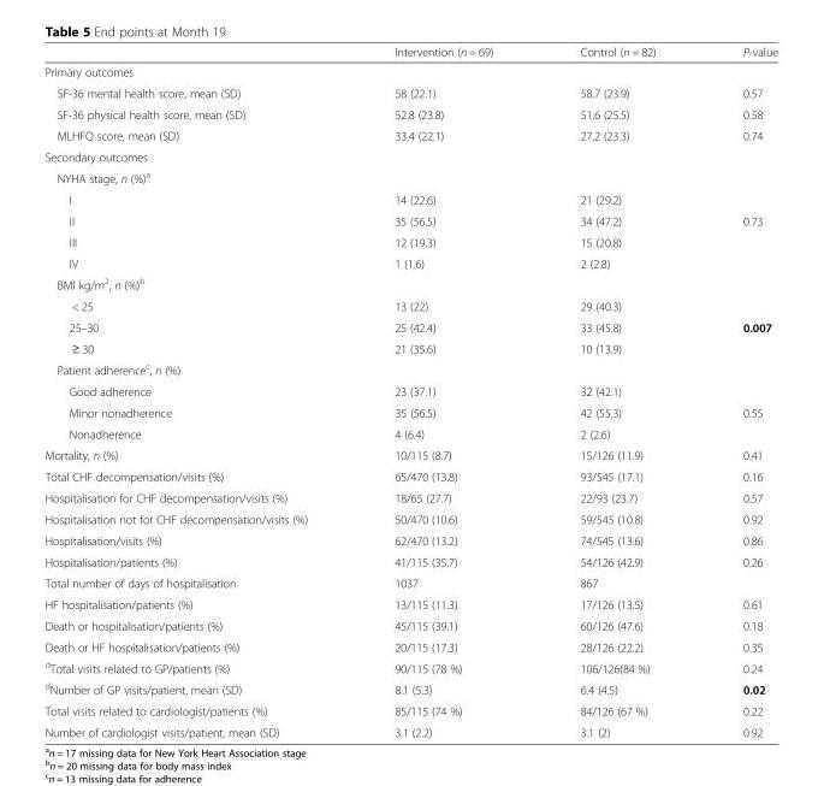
<table><thead><tr><td></td><td>Intervention (n = 69)</td><td>Control (n = 82)</td><td>P-value</td></tr></thead><tbody><tr><td colspan="4">Primary outcomes</td></tr><tr><td>SF-36 mental health score, mean (SD)</td><td>58 (22.1)</td><td>58.7 (23.9)</td><td>0.57</td></tr><tr><td>SF-36 physical health score, mean (SD)</td><td>52.8 (23.8)</td><td>51.6 (25.5)</td><td>0.58</td></tr><tr><td>MLHFQ score, mean (SD)</td><td>33.4 (22.1)</td><td>27.2 (23.3)</td><td>0.74</td></tr><tr><td colspan="4">Secondary outcomes</td></tr><tr><td colspan="4">NYHA stage, n (%)<sup>a</sup></td></tr><tr><td>I</td><td>14 (22.6)</td><td>21 (29.2)</td><td></td></tr><tr><td>II</td><td>35 (56.5)</td><td>34 (47.2)</td><td>0.73</td></tr><tr><td>III</td><td>12 (19.3)</td><td>15 (20.8)</td><td></td></tr><tr><td>IV</td><td>1 (1.6)</td><td>2 (2.8)</td><td></td></tr><tr><td colspan="4">BMI kg/m<sup>2</sup>, n (%)<sup>b</sup></td></tr><tr><td>&lt; 25</td><td>13 (22)</td><td>29 (40.3)</td><td></td></tr><tr><td>25–30</td><td>25 (42.4)</td><td>33 (45.8)</td><td>0.007</td></tr><tr><td>≥ 30</td><td>21 (35.6)</td><td>10 (13.9)</td><td></td></tr><tr><td colspan="4">Patient adherence<sup>c</sup>, n (%)</td></tr><tr><td>Good adherence</td><td>23 (37.1)</td><td>32 (42.1)</td><td></td></tr><tr><td>Minor nonadherence</td><td>35 (56.5)</td><td>42 (55.3)</td><td>0.55</td></tr><tr><td>Nonadherence</td><td>4 (6.4)</td><td>2 (2.6)</td><td></td></tr><tr><td>Mortality, n (%)</td><td>10/115 (8.7)</td><td>15/126 (11.9)</td><td>0.41</td></tr><tr><td>Total CHF decompensation/visits (%)</td><td>65/470 (13.8)</td><td>93/545 (17.1)</td><td>0.16</td></tr><tr><td>Hospitalisation for CHF decompensation/visits (%)</td><td>18/65 (27.7)</td><td>22/93 (23.7)</td><td>0.57</td></tr><tr><td>Hospitalisation not for CHF decompensation/visits (%)</td><td>50/470 (10.6)</td><td>59/545 (10.8)</td><td>0.92</td></tr><tr><td>Hospitalisation/visits (%)</td><td>62/470 (13.2)</td><td>74/545 (13.6)</td><td>0.86</td></tr><tr><td>Hospitalisation/patients (%)</td><td>41/115 (35.7)</td><td>54/126 (42.9)</td><td>0.26</td></tr><tr><td>Total number of days of hospitalisation</td><td>1037</td><td>867</td><td></td></tr><tr><td>HF hospitalisation/patients (%)</td><td>13/115 (11.3)</td><td>17/126 (13.5)</td><td>0.61</td></tr><tr><td>Death or hospitalisation/patients (%)</td><td>45/115 (39.1)</td><td>60/126 (47.6)</td><td>0.18</td></tr><tr><td>Death or HF hospitalisation/patients (%)</td><td>20/115 (17.3)</td><td>28/126 (22.2)</td><td>0.35</td></tr><tr><td><sup>d</sup>Total visits related to GP/patients (%)</td><td>90/115 (78 %)</td><td>106/126(84 %)</td><td>0.24</td></tr><tr><td><sup>d</sup>Number of GP visits/patient, mean (SD)</td><td>8.1 (5.3)</td><td>6.4 (4.5)</td><td>0.02</td></tr><tr><td>Total visits related to cardiologist/patients (%)</td><td>85/115 (74 %)</td><td>84/126 (67 %)</td><td>0.22</td></tr><tr><td>Number of cardiologist visits/patient, mean (SD)</td><td>3.1 (2.2)</td><td>3.1 (2)</td><td>0.92</td></tr></tbody></table>